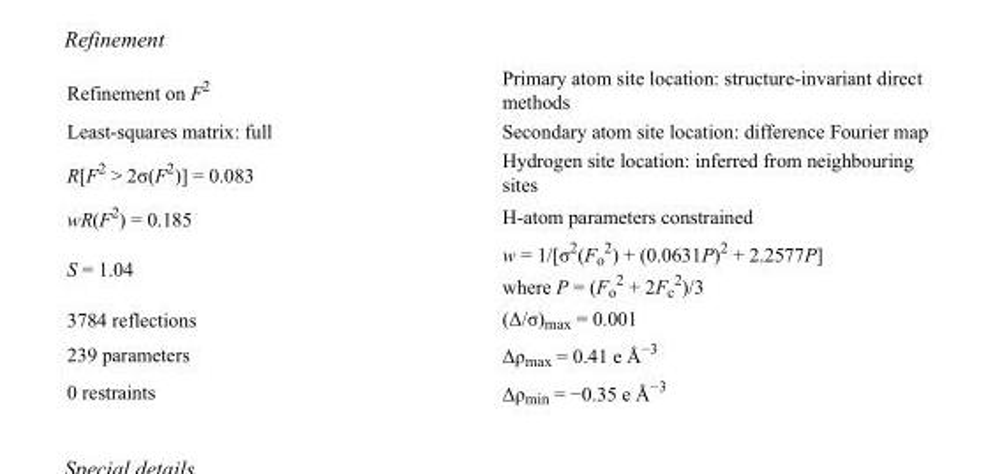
<table><tbody><tr><td>Refinement on F<sup>2</sup></td><td>Primary atom site location: structure-invariant direct methods</td></tr><tr><td>Least-squares matrix: full</td><td>Secondary atom site location: difference Fourier map</td></tr><tr><td>R[F<sup>2</sup> &gt; 2σ(F<sup>2</sup>)] = 0.083</td><td>Hydrogen site location: inferred from neighbouring sites</td></tr><tr><td>wR(F<sup>2</sup>) = 0.185</td><td>H-atom parameters constrained</td></tr><tr><td>S = 1.04</td><td>w = 1/[σ<sup>2</sup>(F<sub>o</sub> <sup>2</sup>) + (0.0631P)<sup>2</sup> + 2.2577P] where P = (F<sub>o</sub> <sup>2</sup> + 2F<sub>c</sub> <sup>2</sup>)/3</td></tr><tr><td>3784 reflections</td><td>(Δ/σ)<sub>max</sub> = 0.001</td></tr><tr><td>239 parameters</td><td>Δρ<sub>max</sub> = 0.41 e Å<sup>−3</sup></td></tr><tr><td>0 restraints</td><td>Δρ<sub>min</sub> = −0.35 e Å<sup>−3</sup></td></tr></tbody></table>